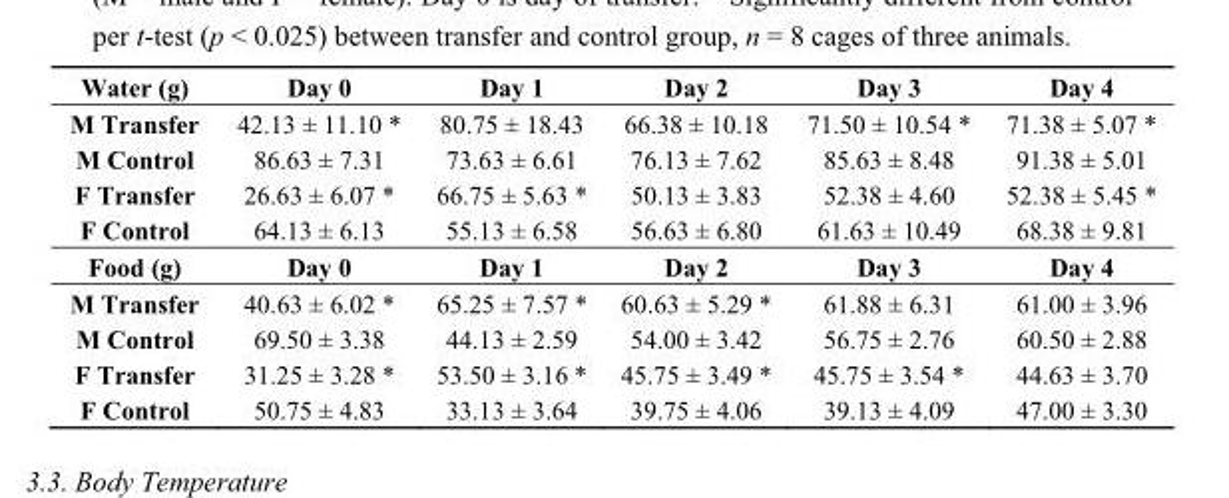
<table><tbody><tr><td>Water (g)</td><td>Day 0</td><td>Day 1</td><td>Day 2</td><td>Day 3</td><td>Day 4</td></tr><tr><td>M Transfer</td><td>42.13 ± 11.10 *</td><td>80.75 ± 18.43</td><td>66.38 ± 10.18</td><td>71.50 ± 10.54 *</td><td>71.38 ± 5.07 *</td></tr><tr><td>M Control</td><td>86.63 ± 7.31</td><td>73.63 ± 6.61</td><td>76.13 ± 7.62</td><td>85.63 ± 8.48</td><td>91.38 ± 5.01</td></tr><tr><td>F Transfer</td><td>26.63 ± 6.07 *</td><td>66.75 ± 5.63 *</td><td>50.13 ± 3.83</td><td>52.38 ± 4.60</td><td>52.38 ± 5.45 *</td></tr><tr><td>F Control</td><td>64.13 ± 6.13</td><td>55.13 ± 6.58</td><td>56.63 ± 6.80</td><td>61.63 ± 10.49</td><td>68.38 ± 9.81</td></tr><tr><td>Food (g)</td><td>Day 0</td><td>Day 1</td><td>Day 2</td><td>Day 3</td><td>Day 4</td></tr><tr><td>M Transfer</td><td>40.63 ± 6.02 *</td><td>65.25 ± 7.57 *</td><td>60.63 ± 5.29 *</td><td>61.88 ± 6.31</td><td>61.00 ± 3.96</td></tr><tr><td>M Control</td><td>69.50 ± 3.38</td><td>44.13 ± 2.59</td><td>54.00 ± 3.42</td><td>56.75 ± 2.76</td><td>60.50 ± 2.88</td></tr><tr><td>F Transfer</td><td>31.25 ± 3.28 *</td><td>53.50 ± 3.16 *</td><td>45.75 ± 3.49 *</td><td>45.75 ± 3.54 *</td><td>44.63 ± 3.70</td></tr><tr><td>F Control</td><td>50.75 ± 4.83</td><td>33.13 ± 3.64</td><td>39.75 ± 4.06</td><td>39.13 ± 4.09</td><td>47.00 ± 3.30</td></tr></tbody></table>